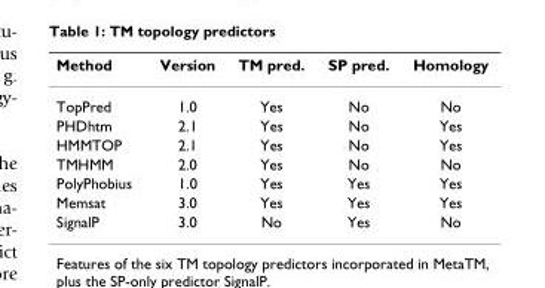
<table><thead><tr><td>Method</td><td>Version</td><td>TM pred.</td><td>SP pred.</td><td>Homology</td></tr></thead><tbody><tr><td>TopPred</td><td>1.0</td><td>Yes</td><td>No</td><td>No</td></tr><tr><td>PHDhtm</td><td>2.1</td><td>Yes</td><td>No</td><td>Yes</td></tr><tr><td>HMMTOP</td><td>2.1</td><td>Yes</td><td>No</td><td>Yes</td></tr><tr><td>TMHMM</td><td>2.0</td><td>Yes</td><td>No</td><td>No</td></tr><tr><td>PolyPhobius</td><td>1.0</td><td>Yes</td><td>Yes</td><td>Yes</td></tr><tr><td>Memsat</td><td>3.0</td><td>Yes</td><td>Yes</td><td>Yes</td></tr><tr><td>SignalP</td><td>3.0</td><td>No</td><td>Yes</td><td>No</td></tr></tbody></table>